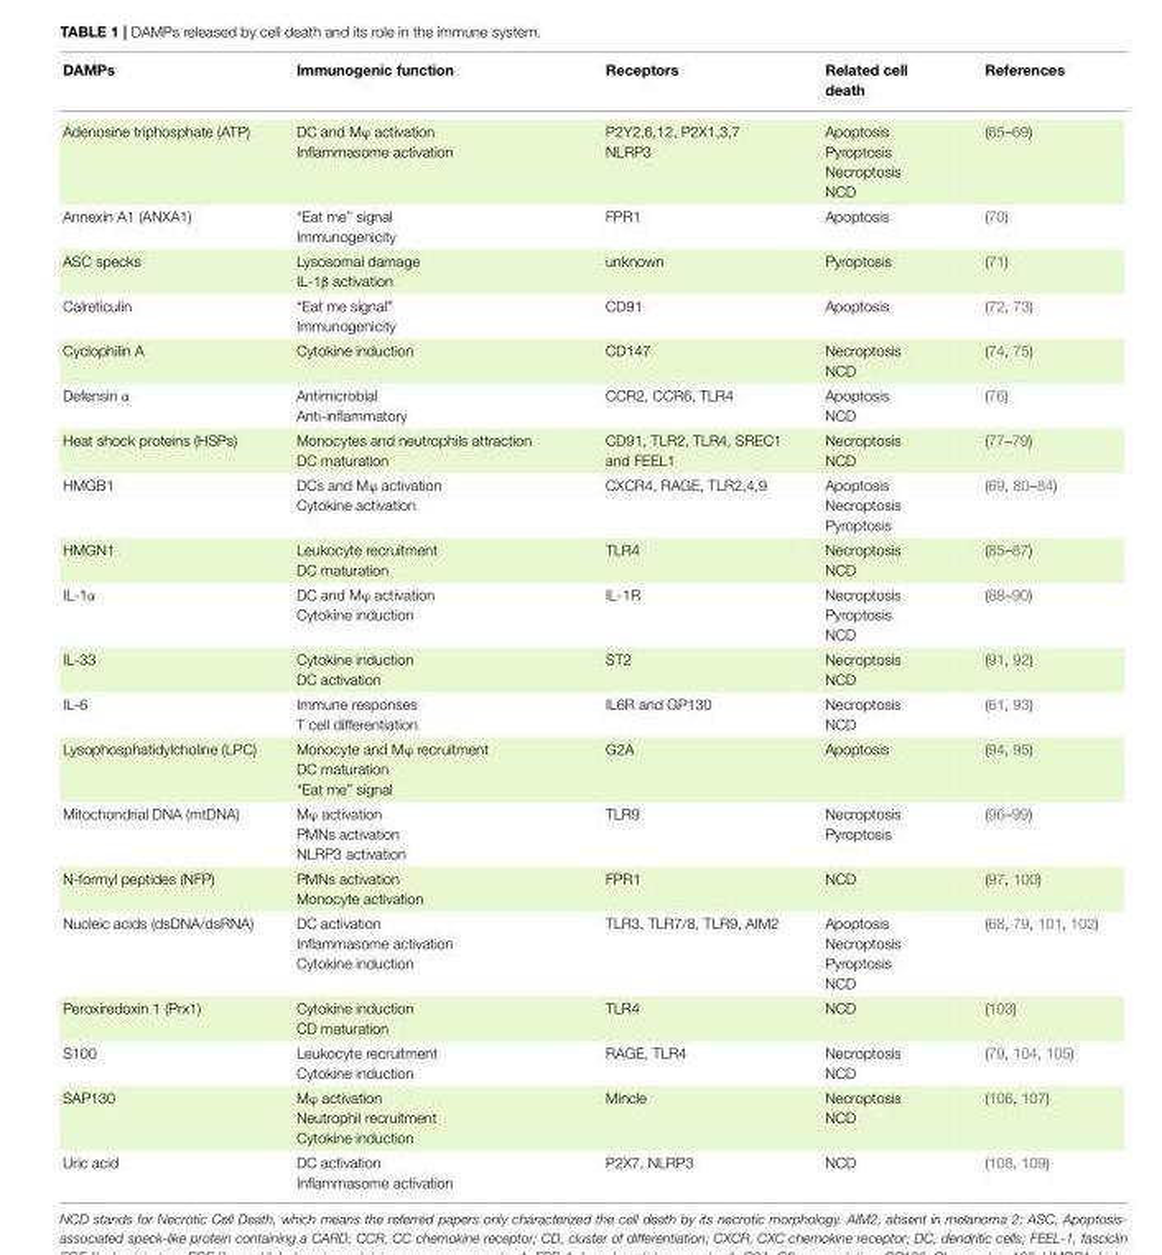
<table><thead><tr><td>DAMPs</td><td>Immunogenic function</td><td>Receptors</td><td>Related cell death</td><td>References</td></tr></thead><tbody><tr><td>Adenosine triphosphate (ATP)</td><td>DC and Mϕ activation Inflammasome activation</td><td>P2Y2,6,12, P2X1,3,7 NLRP3</td><td>Apoptosis Pyroptosis Necroptosis NCD</td><td>(65–69)</td></tr><tr><td>Annexin A1 (ANXA1)</td><td>“Eat me” signal Immunogenicity</td><td>FPR1</td><td>Apoptosis</td><td>(70)</td></tr><tr><td>ASC specks</td><td>Lysosomal damage IL-1β activation</td><td>unknown</td><td>Pyroptosis</td><td>(71)</td></tr><tr><td>Calreticulin</td><td>“Eat me signal” Immunogenicity</td><td>CD91</td><td>Apoptosis</td><td>(72, 73)</td></tr><tr><td>Cyclophilin A</td><td>Cytokine induction</td><td>CD147</td><td>Necroptosis NCD</td><td>(74, 75)</td></tr><tr><td>Defensin α</td><td>Antimicrobial Anti-inflammatory</td><td>CCR2, CCR6, TLR4</td><td>Apoptosis NCD</td><td>(76)</td></tr><tr><td>Heat shock proteins (HSPs)</td><td>Monocytes and neutrophils attraction DC maturation</td><td>CD91, TLR2, TLR4, SREC1 and FEEL1</td><td>Necroptosis NCD</td><td>(77–79)</td></tr><tr><td>HMGB1</td><td>DCs and Mϕ activation Cytokine activation</td><td>CXCR4, RAGE, TLR2,4,9</td><td>Apoptosis Necroptosis Pyroptosis</td><td>(69, 80–84)</td></tr><tr><td>HMGN1</td><td>Leukocyte recruitment DC maturation</td><td>TLR4</td><td>Necroptosis NCD</td><td>(85–87)</td></tr><tr><td>IL-1α</td><td>DC and Mϕ activation Cytokine induction</td><td>IL-1R</td><td>Necroptosis Pyroptosis NCD</td><td>(88–90)</td></tr><tr><td>IL-33</td><td>Cytokine induction DC activation</td><td>ST2</td><td>Necroptosis NCD</td><td>(91, 92)</td></tr><tr><td>IL-6</td><td>Immune responses T cell differentiation</td><td>IL6R and GP130</td><td>Necroptosis NCD</td><td>(61, 93)</td></tr><tr><td>Lysophosphatidylcholine (LPC)</td><td>Monocyte and Mϕ recruitment DC maturation “Eat me” signal</td><td>G2A</td><td>Apoptosis</td><td>(94, 95)</td></tr><tr><td>Mitochondrial DNA (mtDNA)</td><td>Mϕ activation PMNs activation NLRP3 activation</td><td>TLR9</td><td>Necroptosis Pyroptosis</td><td>(96–99)</td></tr><tr><td>N-formyl peptides (NFP)</td><td>PMNs activation Monocyte activation</td><td>FPR1</td><td>NCD</td><td>(97, 100)</td></tr><tr><td>Nucleic acids (dsDNA/dsRNA)</td><td>DC activation Inflammasome activation Cytokine induction</td><td>TLR3, TLR7/8, TLR9, AIM2</td><td>Apoptosis Necroptosis Pyroptosis NCD</td><td>(68, 79, 101, 102)</td></tr><tr><td>Peroxiredoxin 1 (Prx1)</td><td>Cytokine induction CD maturation</td><td>TLR4</td><td>NCD</td><td>(103)</td></tr><tr><td>S100</td><td>Leukocyte recruitment Cytokine induction</td><td>RAGE, TLR4</td><td>Necroptosis NCD</td><td>(79, 104, 105)</td></tr><tr><td>SAP130</td><td>Mϕ activation Neutrophil recruitment Cytokine induction</td><td>Mincle</td><td>Necroptosis NCD</td><td>(106, 107)</td></tr><tr><td>Uric acid</td><td>DC activation Inflammasome activation</td><td>P2X7, NLRP3</td><td>NCD</td><td>(108, 109)</td></tr></tbody></table>